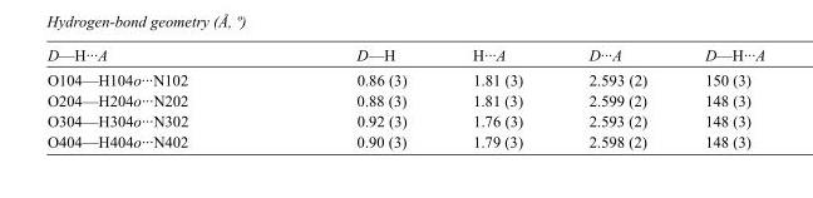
<table><tbody><tr><td>D—H···A</td><td>D—H</td><td>H···A</td><td>D···A</td><td>D—H···A</td></tr><tr><td>O104—H104o···N102</td><td>0.86 (3)</td><td>1.81 (3)</td><td>2.593 (2)</td><td>150 (3)</td></tr><tr><td>O204—H204o···N202</td><td>0.88 (3)</td><td>1.81 (3)</td><td>2.599 (2)</td><td>148 (3)</td></tr><tr><td>O304—H304o···N302</td><td>0.92 (3)</td><td>1.76 (3)</td><td>2.593 (2)</td><td>148 (3)</td></tr><tr><td>O404—H404o···N402</td><td>0.90 (3)</td><td>1.79 (3)</td><td>2.598 (2)</td><td>148 (3)</td></tr></tbody></table>